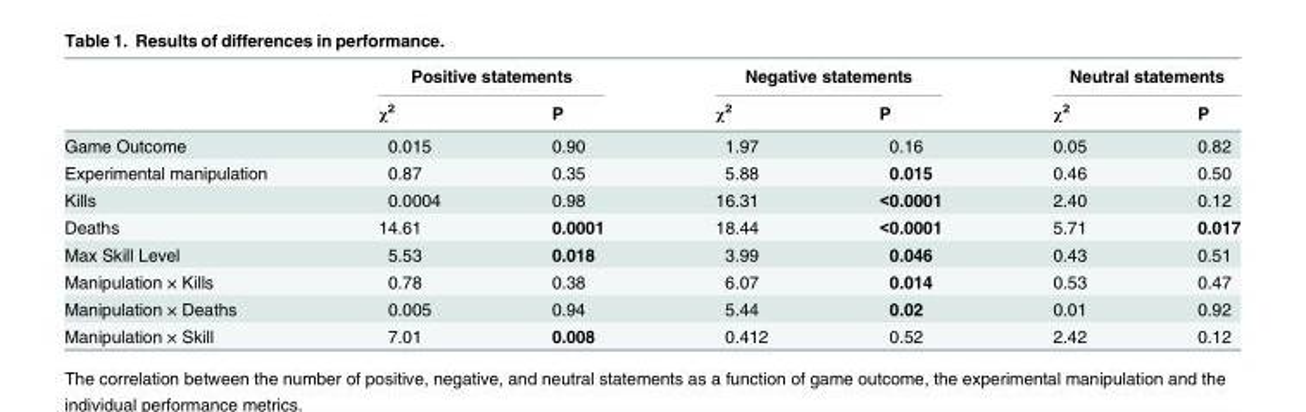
<table><thead><tr><td rowspan="2"></td><td colspan="2">Positive statements</td><td colspan="2">Negative statements</td><td colspan="2">Neutral statements</td></tr><tr><td>χ<sup>2</sup></td><td>P</td><td>χ<sup>2</sup></td><td>P</td><td>χ<sup>2</sup></td><td>P</td></tr></thead><tbody><tr><td>Game Outcome</td><td>0.015</td><td>0.90</td><td>1.97</td><td>0.16</td><td>0.05</td><td>0.82</td></tr><tr><td>Experimental manipulation</td><td>0.87</td><td>0.35</td><td>5.88</td><td>0.015</td><td>0.46</td><td>0.50</td></tr><tr><td>Kills</td><td>0.0004</td><td>0.98</td><td>16.31</td><td>&lt;0.0001</td><td>2.40</td><td>0.12</td></tr><tr><td>Deaths</td><td>14.61</td><td>0.0001</td><td>18.44</td><td>&lt;0.0001</td><td>5.71</td><td>0.017</td></tr><tr><td>Max Skill Level</td><td>5.53</td><td>0.018</td><td>3.99</td><td>0.046</td><td>0.43</td><td>0.51</td></tr><tr><td>Manipulation × Kills</td><td>0.78</td><td>0.38</td><td>6.07</td><td>0.014</td><td>0.53</td><td>0.47</td></tr><tr><td>Manipulation × Deaths</td><td>0.005</td><td>0.94</td><td>5.44</td><td>0.02</td><td>0.01</td><td>0.92</td></tr><tr><td>Manipulation × Skill</td><td>7.01</td><td>0.008</td><td>0.412</td><td>0.52</td><td>2.42</td><td>0.12</td></tr></tbody></table>